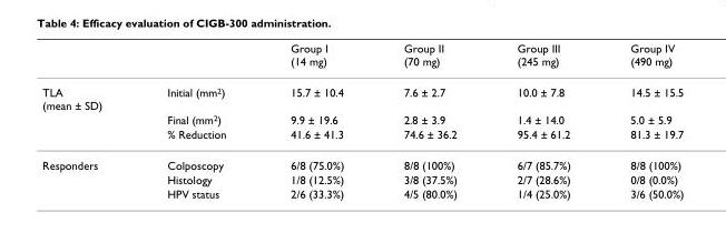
<table><thead><tr><td></td><td></td><td>Group I (14 mg)</td><td>Group II (70 mg)</td><td>Group III (245 mg)</td><td>Group IV (490 mg)</td></tr></thead><tbody><tr><td rowspan="3">TLA (mean ± SD)</td><td>Initial (mm<sup>2</sup>)</td><td>15.7 ± 10.4</td><td>7.6 ± 2.7</td><td>10.0 ± 7.8</td><td>14.5 ± 15.5</td></tr><tr><td>Final (mm<sup>2</sup>)</td><td>9.9 ± 19.6</td><td>2.8 ± 3.9</td><td>1.4 ± 14.0</td><td>5.0 ± 5.9</td></tr><tr><td>% Reduction</td><td>41.6 ± 41.3</td><td>74.6 ± 36.2</td><td>95.4 ± 61.2</td><td>81.3 ± 19.7</td></tr><tr><td rowspan="3">Responders</td><td>Colposcopy</td><td>6/8 (75.0%)</td><td>8/8 (100%)</td><td>6/7 (85.7%)</td><td>8/8 (100%)</td></tr><tr><td>Histology</td><td>1/8 (12.5%)</td><td>3/8 (37.5%)</td><td>2/7 (28.6%)</td><td>0/8 (0.0%)</td></tr><tr><td>HPV status</td><td>2/6 (33.3%)</td><td>4/5 (80.0%)</td><td>1/4 (25.0%)</td><td>3/6 (50.0%)</td></tr></tbody></table>